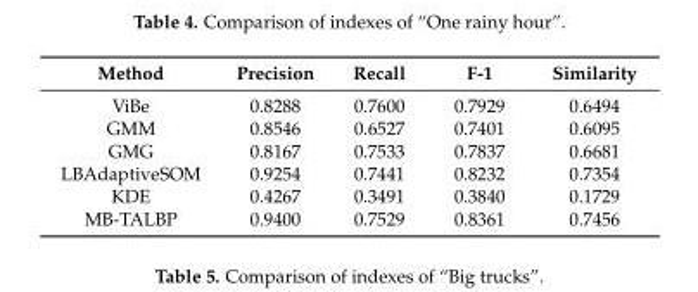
<table><thead><tr><td>Method</td><td>Precision</td><td>Recall</td><td>F-1</td><td>Similarity</td></tr></thead><tbody><tr><td>ViBe</td><td>0.8288</td><td>0.7600</td><td>0.7929</td><td>0.6494</td></tr><tr><td>GMM</td><td>0.8546</td><td>0.6527</td><td>0.7401</td><td>0.6095</td></tr><tr><td>GMG</td><td>0.8167</td><td>0.7533</td><td>0.7837</td><td>0.6681</td></tr><tr><td>LBAdaptiveSOM</td><td>0.9254</td><td>0.7441</td><td>0.8232</td><td>0.7354</td></tr><tr><td>KDE</td><td>0.4267</td><td>0.3491</td><td>0.3840</td><td>0.1729</td></tr><tr><td>MB-TALBP</td><td>0.9400</td><td>0.7529</td><td>0.8361</td><td>0.7456</td></tr></tbody></table>